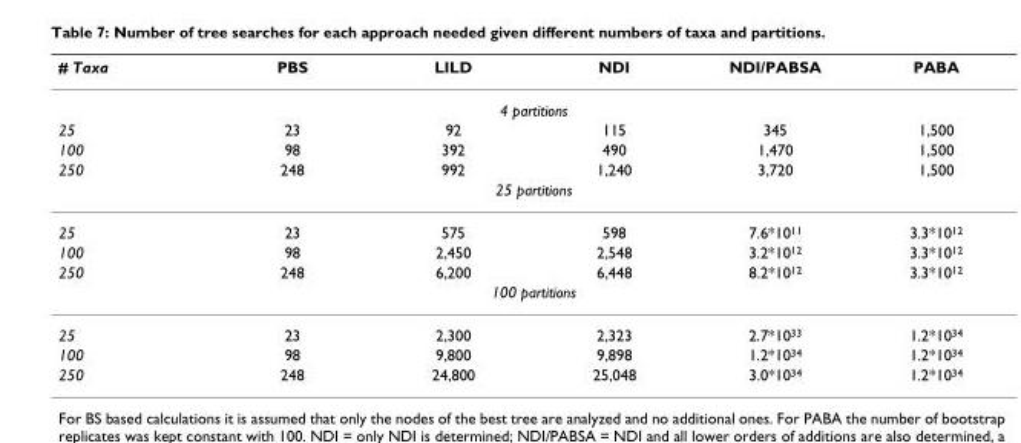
<table><thead><tr><td># Taxa</td><td>PBS</td><td>LILD</td><td>NDI</td><td>NDI/PABSA</td><td>PABA</td></tr></thead><tbody><tr><td colspan="6">4 partitions</td></tr><tr><td>25</td><td>23</td><td>92</td><td>115</td><td>345</td><td>1,500</td></tr><tr><td>100</td><td>98</td><td>392</td><td>490</td><td>1,470</td><td>1,500</td></tr><tr><td>250</td><td>248</td><td>992</td><td>1,240</td><td>3,720</td><td>1,500</td></tr><tr><td colspan="6">25 partitions</td></tr><tr><td>25</td><td>23</td><td>575</td><td>598</td><td>7.6*10<sup>11</sup></td><td>3.3*10<sup>12</sup></td></tr><tr><td>100</td><td>98</td><td>2,450</td><td>2,548</td><td>3.2*10<sup>12</sup></td><td>3.3*10<sup>12</sup></td></tr><tr><td>250</td><td>248</td><td>6,200</td><td>6,448</td><td>8.2*10<sup>12</sup></td><td>3.3*10<sup>12</sup></td></tr><tr><td colspan="6">100 partitions</td></tr><tr><td>25</td><td>23</td><td>2,300</td><td>2,323</td><td>2.7*10<sup>33</sup></td><td>1.2*10<sup>34</sup></td></tr><tr><td>100</td><td>98</td><td>9,800</td><td>9,898</td><td>1.2*10<sup>34</sup></td><td>1.2*10<sup>34</sup></td></tr><tr><td>250</td><td>248</td><td>24,800</td><td>25,048</td><td>3.0*10<sup>34</sup></td><td>1.2*10<sup>34</sup></td></tr></tbody></table>